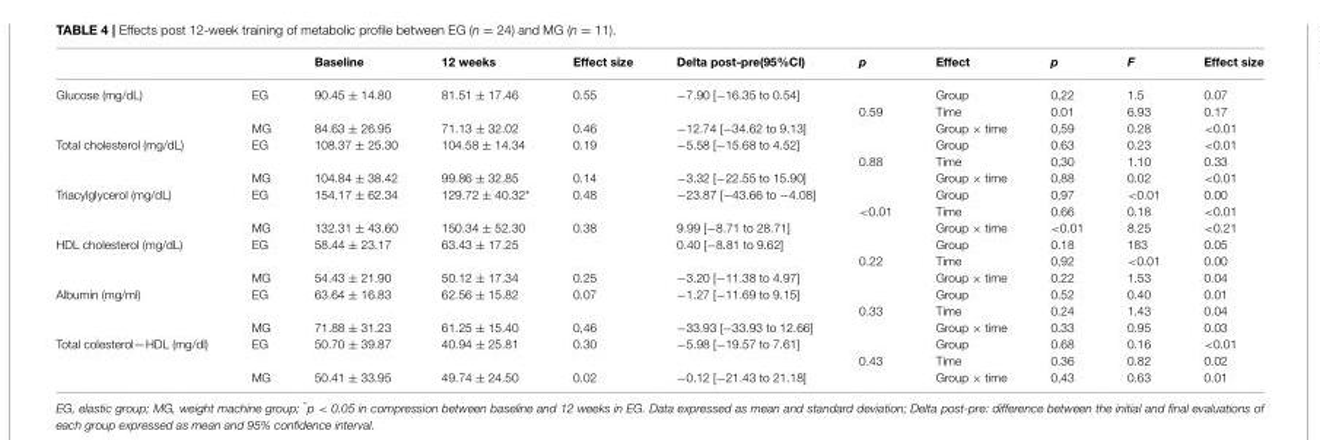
<table><thead><tr><td></td><td></td><td>Baseline</td><td>12 weeks</td><td>Effect size</td><td>Delta post-pre(95%CI)</td><td>p</td><td>Effect</td><td>p</td><td>F</td><td>Effect size</td></tr></thead><tbody><tr><td rowspan="3">Glucose (mg/dL)</td><td>EG</td><td>90.45 ± 14.80</td><td>81.51 ± 17.46</td><td>0.55</td><td>−7.90 [−16.35 to 0.54]</td><td></td><td>Group</td><td>0,22</td><td>1.5</td><td>0.07</td></tr><tr><td></td><td></td><td></td><td></td><td></td><td>0.59</td><td>Time</td><td>0.01</td><td>6.93</td><td>0.17</td></tr><tr><td>MG</td><td>84.63 ± 26.95</td><td>71.13 ± 32.02</td><td>0.46</td><td>−12.74 [−34.62 to 9.13]</td><td></td><td>Group × time</td><td>0,59</td><td>0.28</td><td>&lt;0.01</td></tr><tr><td rowspan="3">Total cholesterol (mg/dL)</td><td>EG</td><td>108.37 ± 25.30</td><td>104.58 ± 14.34</td><td>0.19</td><td>−5.58 [−15.68 to 4.52]</td><td></td><td>Group</td><td>0.63</td><td>0.23</td><td>&lt;0.01</td></tr><tr><td></td><td></td><td></td><td></td><td></td><td>0.88</td><td>Time</td><td>0,30</td><td>1.10</td><td>0.33</td></tr><tr><td>MG</td><td>104.84 ± 38.42</td><td>99.86 ± 32.85</td><td>0.14</td><td>−3.32 [−22.55 to 15.90]</td><td></td><td>Group × time</td><td>0,88</td><td>0.02</td><td>&lt;0.01</td></tr><tr><td rowspan="3">Triacylglycerol (mg/dL)</td><td>EG</td><td>154.17 ± 62.34</td><td>129.72 ± 40.32*</td><td>0.48</td><td>−23.87 [−43.66 to −4.08]</td><td></td><td>Group</td><td>0,97</td><td>&lt;0.01</td><td>0.00</td></tr><tr><td></td><td></td><td></td><td></td><td></td><td>&lt;0.01</td><td>Time</td><td>0.66</td><td>0.18</td><td>&lt;0.01</td></tr><tr><td>MG</td><td>132.31 ± 43.60</td><td>150.34 ± 52.30</td><td>0.38</td><td>9.99 [−8.71 to 28.71]</td><td></td><td>Group × time</td><td>&lt;0.01</td><td>8.25</td><td>&lt;0.21</td></tr><tr><td rowspan="3">HDL cholesterol (mg/dL)</td><td>EG</td><td>58.44 ± 23.17</td><td>63.43 ± 17.25</td><td></td><td>0.40 [−8.81 to 9.62]</td><td></td><td>Group</td><td>0.18</td><td>183</td><td>0.05</td></tr><tr><td></td><td></td><td></td><td></td><td></td><td>0.22</td><td>Time</td><td>0,92</td><td>&lt;0.01</td><td>0.00</td></tr><tr><td>MG</td><td>54.43 ± 21.90</td><td>50.12 ± 17.34</td><td>0.25</td><td>−3.20 [−11.38 to 4.97]</td><td></td><td>Group × time</td><td>0.22</td><td>1.53</td><td>0.04</td></tr><tr><td rowspan="3">Albumin (mg/ml)</td><td>EG</td><td>63.64 ± 16.83</td><td>62.56 ± 15.82</td><td>0.07</td><td>−1.27 [−11.69 to 9.15]</td><td></td><td>Group</td><td>0.52</td><td>0.40</td><td>0.01</td></tr><tr><td></td><td></td><td></td><td></td><td></td><td>0.33</td><td>Time</td><td>0.24</td><td>1.43</td><td>0.04</td></tr><tr><td>MG</td><td>71.88 ± 31.23</td><td>61.25 ± 15.40</td><td>0,46</td><td>−33.93 [−33.93 to 12.66]</td><td></td><td>Group × time</td><td>0.33</td><td>0.95</td><td>0.03</td></tr><tr><td rowspan="3">Total colesterol—HDL (mg/dl)</td><td>EG</td><td>50.70 ± 39.87</td><td>40.94 ± 25.81</td><td>0.30</td><td>−5.98 [−19.57 to 7.61]</td><td></td><td>Group</td><td>0.68</td><td>0.16</td><td>&lt;0.01</td></tr><tr><td></td><td></td><td></td><td></td><td></td><td>0.43</td><td>Time</td><td>0.36</td><td>0.82</td><td>0.02</td></tr><tr><td>MG</td><td>50.41 ± 33.95</td><td>49.74 ± 24.50</td><td>0.02</td><td>−0.12 [−21.43 to 21.18]</td><td></td><td>Group × time</td><td>0,43</td><td>0.63</td><td>0.01</td></tr></tbody></table>